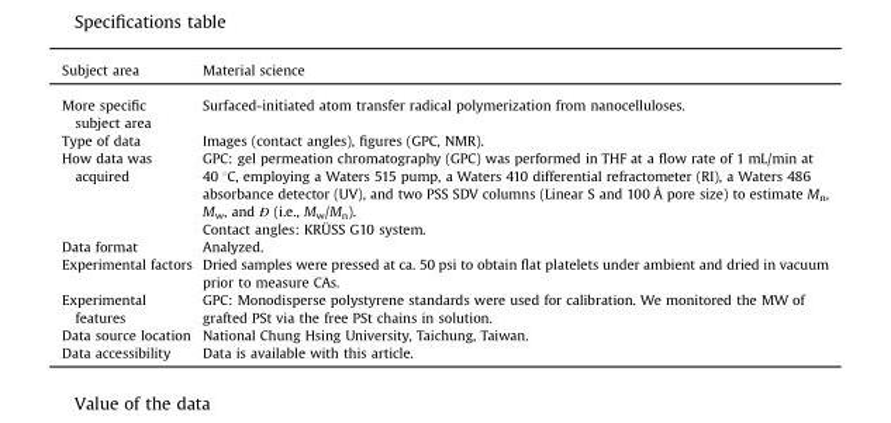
<table><thead><tr><td>Subject area</td><td>Material science</td></tr></thead><tbody><tr><td>More specific subject area</td><td>Surfaced-initiated atom transfer radical polymerization from nanocelluloses.</td></tr><tr><td>Type of data</td><td>Images (contact angles), figures (GPC, NMR).</td></tr><tr><td rowspan="2">How data was acquired</td><td>GPC: gel permeation chromatography (GPC) was performed in THF at a flow rate of 1 mL/min at 40 °C, employing a Waters 515 pump, a Waters 410 differential refractometer (RI), a Waters 486 absorbance detector (UV), and two PSS SDV columns (Linear S and 100 Å pore size) to estimate M<sub>n</sub>, M<sub>w</sub>, and Đ (i.e., M<sub>w</sub>/M<sub>n</sub>).</td></tr><tr><td>Contact angles: KRÜSS G10 system.</td></tr><tr><td>Data format</td><td>Analyzed.</td></tr><tr><td>Experimental factors</td><td>Dried samples were pressed at ca. 50 psi to obtain flat platelets under ambient and dried in vacuum prior to measure CAs.</td></tr><tr><td>Experimental features</td><td>GPC: Monodisperse polystyrene standards were used for calibration. We monitored the MW of grafted PSt via the free PSt chains in solution.</td></tr><tr><td>Data source location</td><td>National Chung Hsing University, Taichung, Taiwan.</td></tr><tr><td>Data accessibility</td><td>Data is available with this article.</td></tr></tbody></table>